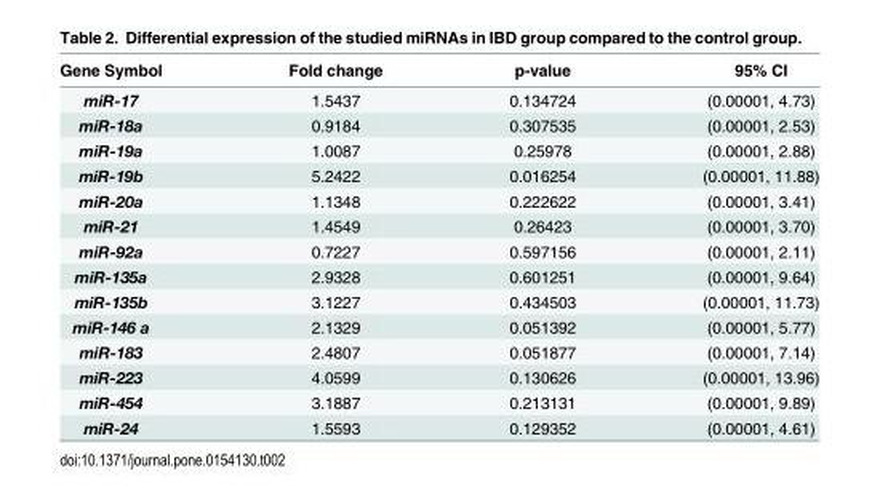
<table><thead><tr><td>Gene Symbol</td><td>Fold change</td><td>p-value</td><td>95% CI</td></tr></thead><tbody><tr><td>miR-17</td><td>1.5437</td><td>0.134724</td><td>(0.00001, 4.73)</td></tr><tr><td>miR-18a</td><td>0.9184</td><td>0.307535</td><td>(0.00001, 2.53)</td></tr><tr><td>miR-19a</td><td>1.0087</td><td>0.25978</td><td>(0.00001, 2.88)</td></tr><tr><td>miR-19b</td><td>5.2422</td><td>0.016254</td><td>(0.00001, 11.88)</td></tr><tr><td>miR-20a</td><td>1.1348</td><td>0.222622</td><td>(0.00001, 3.41)</td></tr><tr><td>miR-21</td><td>1.4549</td><td>0.26423</td><td>(0.00001, 3.70)</td></tr><tr><td>miR-92a</td><td>0.7227</td><td>0.597156</td><td>(0.00001, 2.11)</td></tr><tr><td>miR-135a</td><td>2.9328</td><td>0.601251</td><td>(0.00001, 9.64)</td></tr><tr><td>miR-135b</td><td>3.1227</td><td>0.434503</td><td>(0.00001, 11.73)</td></tr><tr><td>miR-146 a</td><td>2.1329</td><td>0.051392</td><td>(0.00001, 5.77)</td></tr><tr><td>miR-183</td><td>2.4807</td><td>0.051877</td><td>(0.00001, 7.14)</td></tr><tr><td>miR-223</td><td>4.0599</td><td>0.130626</td><td>(0.00001, 13.96)</td></tr><tr><td>miR-454</td><td>3.1887</td><td>0.213131</td><td>(0.00001, 9.89)</td></tr><tr><td>miR-24</td><td>1.5593</td><td>0.129352</td><td>(0.00001, 4.61)</td></tr></tbody></table>